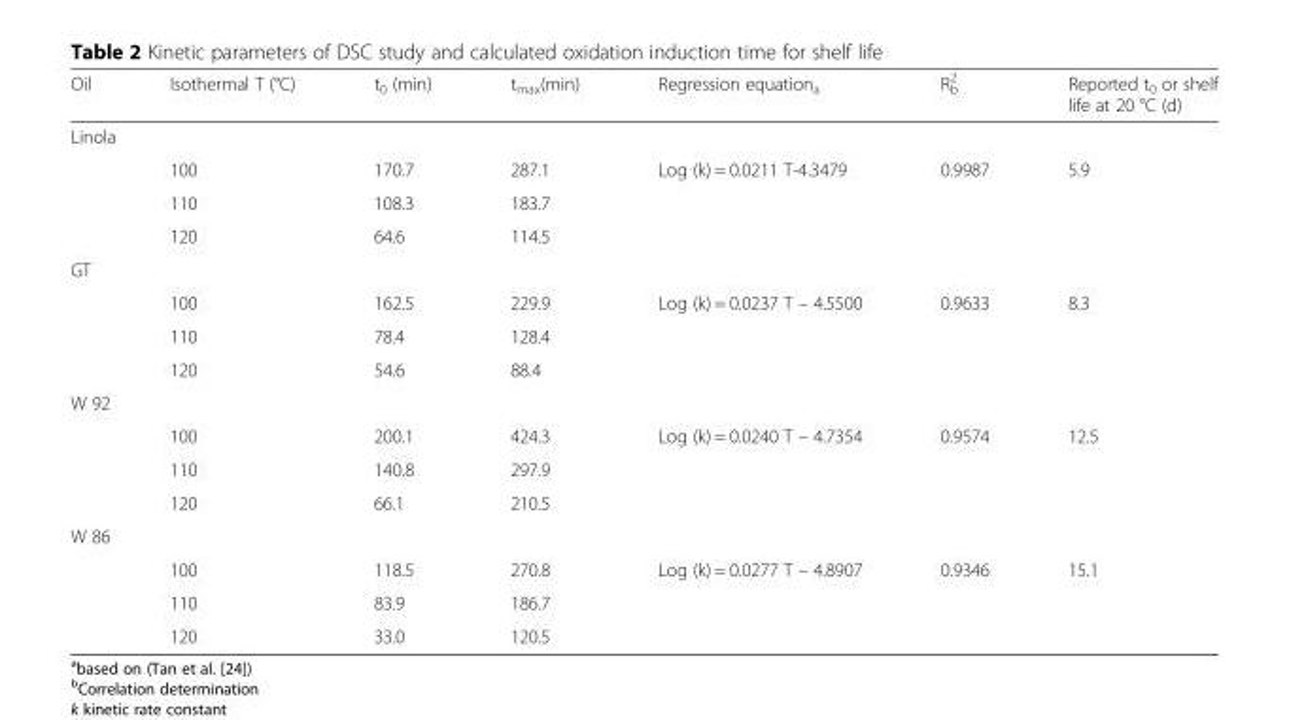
<table><thead><tr><td>Oil</td><td>Isothermal T (°C)</td><td>t<sub>0</sub> (min)</td><td>t<sub>max</sub>(min)</td><td>Regression equation<sub>a</sub></td><td>R<sup>2</sup> <sub>b</sub></td><td>Reported t<sub>0</sub> or shelf life at 20 °C (d)</td></tr></thead><tbody><tr><td colspan="7">Linola</td></tr><tr><td></td><td>100</td><td>170.7</td><td>287.1</td><td rowspan="3">Log (k) = 0.0211 T-4.3479</td><td rowspan="3">0.9987</td><td rowspan="3">5.9</td></tr><tr><td></td><td>110</td><td>108.3</td><td>183.7</td></tr><tr><td></td><td>120</td><td>64.6</td><td>114.5</td></tr><tr><td colspan="7">GT</td></tr><tr><td></td><td>100</td><td>162.5</td><td>229.9</td><td rowspan="3">Log (k) = 0.0237 T – 4.5500</td><td rowspan="3">0.9633</td><td rowspan="3">8.3</td></tr><tr><td></td><td>110</td><td>78.4</td><td>128.4</td></tr><tr><td></td><td>120</td><td>54.6</td><td>88.4</td></tr><tr><td colspan="7">W 92</td></tr><tr><td></td><td>100</td><td>200.1</td><td>424.3</td><td rowspan="3">Log (k) = 0.0240 T – 4.7354</td><td rowspan="3">0.9574</td><td rowspan="3">12.5</td></tr><tr><td></td><td>110</td><td>140.8</td><td>297.9</td></tr><tr><td></td><td>120</td><td>66.1</td><td>210.5</td></tr><tr><td colspan="7">W 86</td></tr><tr><td></td><td>100</td><td>118.5</td><td>270.8</td><td rowspan="3">Log (k) = 0.0277 T – 4.8907</td><td rowspan="3">0.9346</td><td rowspan="3">15.1</td></tr><tr><td></td><td>110</td><td>83.9</td><td>186.7</td></tr><tr><td></td><td>120</td><td>33.0</td><td>120.5</td></tr></tbody></table>